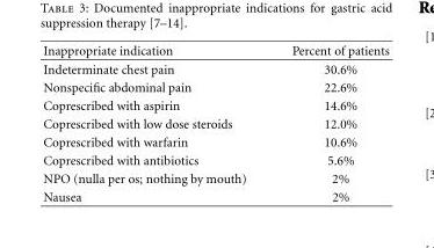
<table><thead><tr><td>Inappropriate indication</td><td>Percent of patients</td></tr></thead><tbody><tr><td>Indeterminate chest pain</td><td>30.6%</td></tr><tr><td>Nonspecific abdominal pain</td><td>22.6%</td></tr><tr><td>Coprescribed with aspirin</td><td>14.6%</td></tr><tr><td>Coprescribed with low dose steroids</td><td>12.0%</td></tr><tr><td>Coprescribed with warfarin</td><td>10.6%</td></tr><tr><td>Coprescribed with antibiotics</td><td>5.6%</td></tr><tr><td>NPO (nulla per os; nothing by mouth)</td><td>2%</td></tr><tr><td>Nausea</td><td>2%</td></tr></tbody></table>